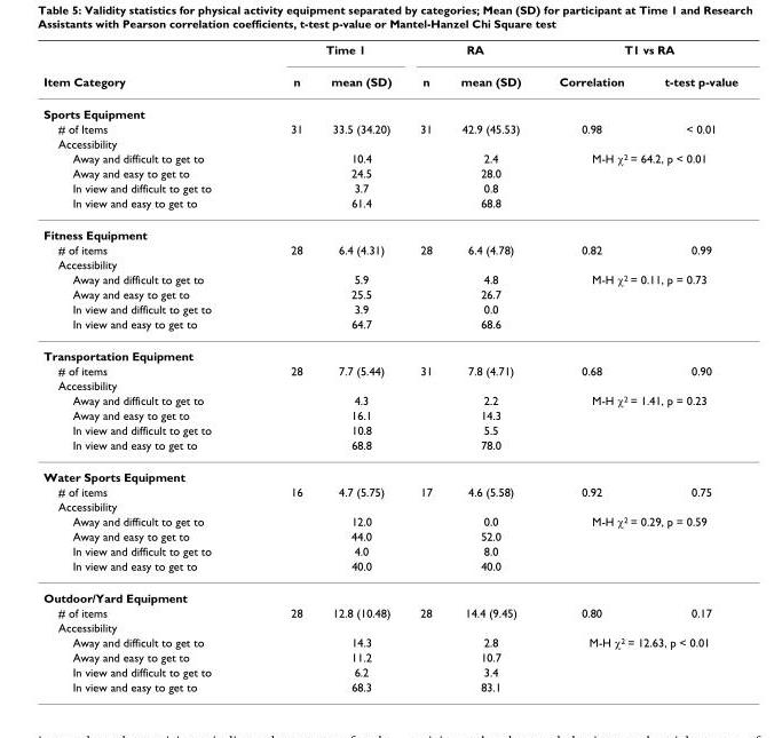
<table><thead><tr><td rowspan="2">Item Category</td><td colspan="2">Time 1</td><td colspan="2">RA</td><td colspan="2">T1 vs RA</td></tr><tr><td>n</td><td>mean (SD)</td><td>n</td><td>mean (SD)</td><td>Correlation</td><td>t-test p-value</td></tr></thead><tbody><tr><td colspan="7">Sports Equipment</td></tr><tr><td># of Items</td><td>31</td><td>33.5 (34.20)</td><td>31</td><td>42.9 (45.53)</td><td>0.98</td><td>&lt; 0.01</td></tr><tr><td colspan="7">Accessibility</td></tr><tr><td>Away and difficult to get to</td><td></td><td>10.4</td><td></td><td>2.4</td><td colspan="2">M-H χ<sup>2</sup> = 64.2, p &lt; 0.01</td></tr><tr><td>Away and easy to get to</td><td></td><td>24.5</td><td></td><td>28.0</td><td></td><td></td></tr><tr><td>In view and difficult to get to</td><td></td><td>3.7</td><td></td><td>0.8</td><td></td><td></td></tr><tr><td>In view and easy to get to</td><td></td><td>61.4</td><td></td><td>68.8</td><td></td><td></td></tr><tr><td colspan="7">Fitness Equipment</td></tr><tr><td># of items</td><td>28</td><td>6.4 (4.31)</td><td>28</td><td>6.4 (4.78)</td><td>0.82</td><td>0.99</td></tr><tr><td colspan="7">Accessibility</td></tr><tr><td>Away and difficult to get to</td><td></td><td>5.9</td><td></td><td>4.8</td><td colspan="2">M-H χ<sup>2</sup> = 0.11, p = 0.73</td></tr><tr><td>Away and easy to get to</td><td></td><td>25.5</td><td></td><td>26.7</td><td></td><td></td></tr><tr><td>In view and difficult to get to</td><td></td><td>3.9</td><td></td><td>0.0</td><td></td><td></td></tr><tr><td>In view and easy to get to</td><td></td><td>64.7</td><td></td><td>68.6</td><td></td><td></td></tr><tr><td colspan="7">Transportation Equipment</td></tr><tr><td># of items</td><td>28</td><td>7.7 (5.44)</td><td>31</td><td>7.8 (4.71)</td><td>0.68</td><td>0.90</td></tr><tr><td colspan="7">Accessibility</td></tr><tr><td>Away and difficult to get to</td><td></td><td>4.3</td><td></td><td>2.2</td><td colspan="2">M-H χ<sup>2</sup> = 1.41, p = 0.23</td></tr><tr><td>Away and easy to get to</td><td></td><td>16.1</td><td></td><td>14.3</td><td></td><td></td></tr><tr><td>In view and difficult to get to</td><td></td><td>10.8</td><td></td><td>5.5</td><td></td><td></td></tr><tr><td>In view and easy to get to</td><td></td><td>68.8</td><td></td><td>78.0</td><td></td><td></td></tr><tr><td colspan="7">Water Sports Equipment</td></tr><tr><td># of items</td><td>16</td><td>4.7 (5.75)</td><td>17</td><td>4.6 (5.58)</td><td>0.92</td><td>0.75</td></tr><tr><td colspan="7">Accessibility</td></tr><tr><td>Away and difficult to get to</td><td></td><td>12.0</td><td></td><td>0.0</td><td colspan="2">M-H χ<sup>2</sup> = 0.29, p = 0.59</td></tr><tr><td>Away and easy to get to</td><td></td><td>44.0</td><td></td><td>52.0</td><td></td><td></td></tr><tr><td>In view and difficult to get to</td><td></td><td>4.0</td><td></td><td>8.0</td><td></td><td></td></tr><tr><td>In view and easy to get to</td><td></td><td>40.0</td><td></td><td>40.0</td><td></td><td></td></tr><tr><td colspan="7">Outdoor/Yard Equipment</td></tr><tr><td># of items</td><td>28</td><td>12.8 (10.48)</td><td>28</td><td>14.4 (9.45)</td><td>0.80</td><td>0.17</td></tr><tr><td colspan="7">Accessibility</td></tr><tr><td>Away and difficult to get to</td><td></td><td>14.3</td><td></td><td>2.8</td><td colspan="2">M-H χ<sup>2</sup> = 12.63, p &lt; 0.01</td></tr><tr><td>Away and easy to get to</td><td></td><td>11.2</td><td></td><td>10.7</td><td></td><td></td></tr><tr><td>In view and difficult to get to</td><td></td><td>6.2</td><td></td><td>3.4</td><td></td><td></td></tr><tr><td>In view and easy to get to</td><td></td><td>68.3</td><td></td><td>83.1</td><td></td><td></td></tr></tbody></table>